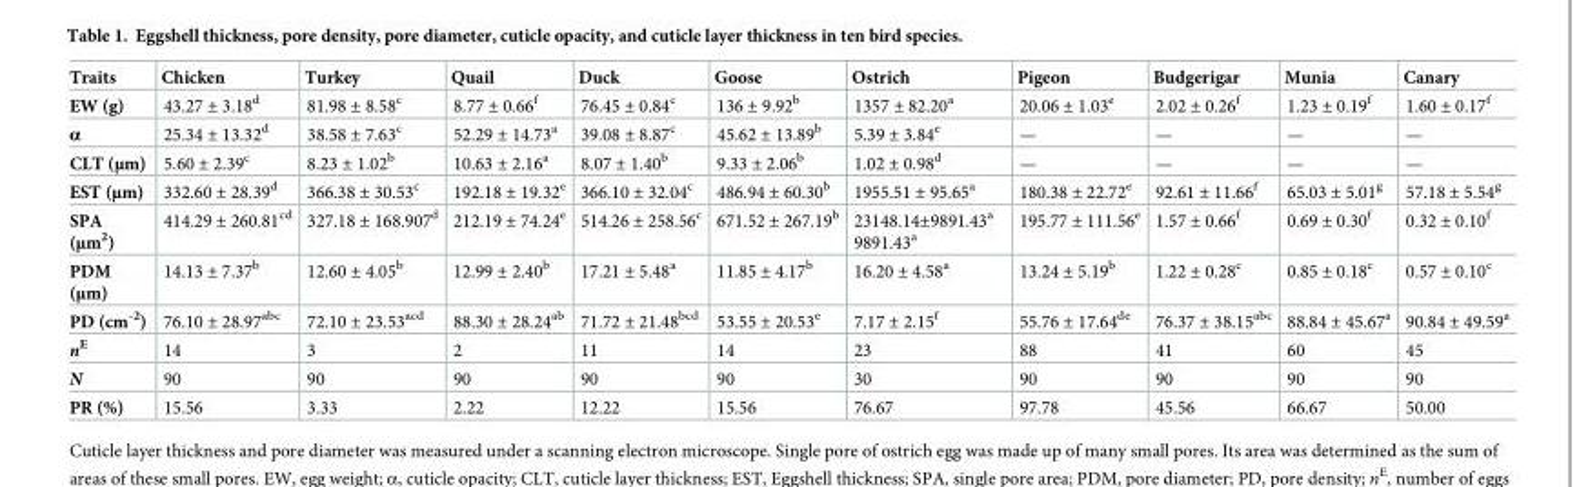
<table><thead><tr><td>Traits</td><td>Chicken</td><td>Turkey</td><td>Quail</td><td>Duck</td><td>Goose</td><td>Ostrich</td><td>Pigeon</td><td>Budgerigar</td><td>Munia</td><td>Canary</td></tr></thead><tbody><tr><td>EW (g)</td><td>43.27 ± 3.18<sup>d</sup></td><td>81.98 ± 8.58<sup>c</sup></td><td>8.77 ± 0.66<sup>f</sup></td><td>76.45 ± 0.84<sup>c</sup></td><td>136 ± 9.92<sup>b</sup></td><td>1357 ± 82.20<sup>a</sup></td><td>20.06 ± 1.03<sup>e</sup></td><td>2.02 ± 0.26<sup>f</sup></td><td>1.23 ± 0.19<sup>f</sup></td><td>1.60 ± 0.17<sup>f</sup></td></tr><tr><td>α</td><td>25.34 ± 13.32<sup>d</sup></td><td>38.58 ± 7.63<sup>c</sup></td><td>52.29 ± 14.73<sup>a</sup></td><td>39.08 ± 8.87<sup>c</sup></td><td>45.62 ± 13.89<sup>b</sup></td><td>5.39 ± 3.84<sup>e</sup></td><td>—</td><td>—</td><td>—</td><td>—</td></tr><tr><td>CLT (μm)</td><td>5.60 ± 2.39<sup>c</sup></td><td>8.23 ± 1.02<sup>b</sup></td><td>10.63 ± 2.16<sup>a</sup></td><td>8.07 ± 1.40<sup>b</sup></td><td>9.33 ± 2.06<sup>b</sup></td><td>1.02 ± 0.98<sup>d</sup></td><td>—</td><td>—</td><td>—</td><td>—</td></tr><tr><td>EST (μm)</td><td>332.60 ± 28.39<sup>d</sup></td><td>366.38 ± 30.53<sup>c</sup></td><td>192.18 ± 19.32<sup>e</sup></td><td>366.10 ± 32.04<sup>c</sup></td><td>486.94 ± 60.30<sup>b</sup></td><td>1955.51 ± 95.65<sup>a</sup></td><td>180.38 ± 22.72<sup>e</sup></td><td>92.61 ± 11.66<sup>f</sup></td><td>65.03 ± 5.01<sup>g</sup></td><td>57.18 ± 5.54<sup>g</sup></td></tr><tr><td>SPA (μm<sup>2</sup>)</td><td>414.29 ± 260.81<sup>cd</sup></td><td>327.18 ± 168.907<sup>d</sup></td><td>212.19 ± 74.24<sup>e</sup></td><td>514.26 ± 258.56<sup>c</sup></td><td>671.52 ± 267.19<sup>b</sup></td><td>23148.14±9891.43<sup>a</sup> 9891.43<sup>a</sup></td><td>195.77 ± 111.56<sup>e</sup></td><td>1.57 ± 0.66<sup>f</sup></td><td>0.69 ± 0.30<sup>f</sup></td><td>0.32 ± 0.10<sup>f</sup></td></tr><tr><td>PDM (μm)</td><td>14.13 ± 7.37<sup>b</sup></td><td>12.60 ± 4.05<sup>b</sup></td><td>12.99 ± 2.40<sup>b</sup></td><td>17.21 ± 5.48<sup>a</sup></td><td>11.85 ± 4.17<sup>b</sup></td><td>16.20 ± 4.58<sup>a</sup></td><td>13.24 ± 5.19<sup>b</sup></td><td>1.22 ± 0.28<sup>c</sup></td><td>0.85 ± 0.18<sup>c</sup></td><td>0.57 ± 0.10<sup>c</sup></td></tr><tr><td>PD (cm<sup>-2</sup>)</td><td>76.10 ± 28.97<sup>abc</sup></td><td>72.10 ± 23.53<sup>acd</sup></td><td>88.30 ± 28.24<sup>ab</sup></td><td>71.72 ± 21.48<sup>bcd</sup></td><td>53.55 ± 20.53<sup>e</sup></td><td>7.17 ± 2.15<sup>f</sup></td><td>55.76 ± 17.64<sup>de</sup></td><td>76.37 ± 38.15<sup>abc</sup></td><td>88.84 ± 45.67<sup>a</sup></td><td>90.84 ± 49.59<sup>a</sup></td></tr><tr><td>n<sup>E</sup></td><td>14</td><td>3</td><td>2</td><td>11</td><td>14</td><td>23</td><td>88</td><td>41</td><td>60</td><td>45</td></tr><tr><td>N</td><td>90</td><td>90</td><td>90</td><td>90</td><td>90</td><td>30</td><td>90</td><td>90</td><td>90</td><td>90</td></tr><tr><td>PR (%)</td><td>15.56</td><td>3.33</td><td>2.22</td><td>12.22</td><td>15.56</td><td>76.67</td><td>97.78</td><td>45.56</td><td>66.67</td><td>50.00</td></tr></tbody></table>